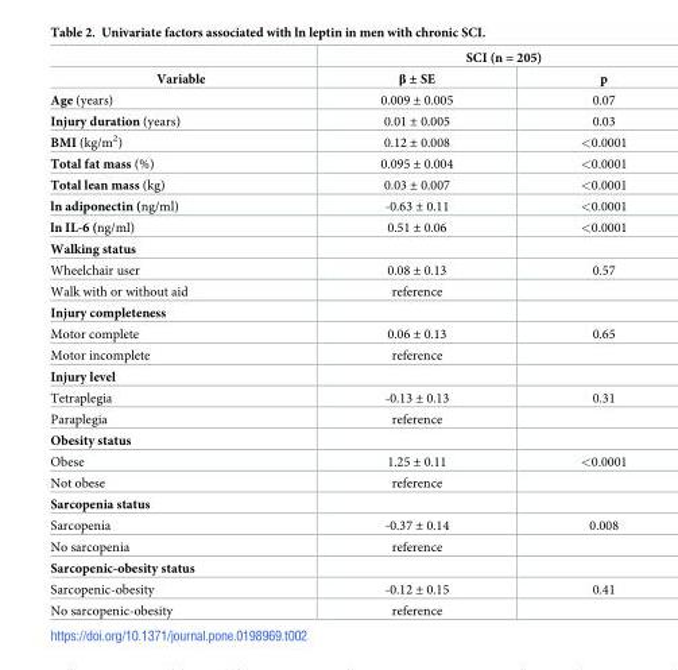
<table><thead><tr><td rowspan="2">Variable</td><td colspan="2">SCI (n = 205)</td></tr><tr><td>β ± SE</td><td>p</td></tr></thead><tbody><tr><td>Age (years)</td><td>0.009 ± 0.005</td><td>0.07</td></tr><tr><td>Injury duration (years)</td><td>0.01 ± 0.005</td><td>0.03</td></tr><tr><td>BMI (kg/m<sup>2</sup>)</td><td>0.12 ± 0.008</td><td>&lt;0.0001</td></tr><tr><td>Total fat mass (%)</td><td>0.095 ± 0.004</td><td>&lt;0.0001</td></tr><tr><td>Total lean mass (kg)</td><td>0.03 ± 0.007</td><td>&lt;0.0001</td></tr><tr><td>ln adiponectin (ng/ml)</td><td>-0.63 ± 0.11</td><td>&lt;0.0001</td></tr><tr><td>ln IL-6 (ng/ml)</td><td>0.51 ± 0.06</td><td>&lt;0.0001</td></tr><tr><td colspan="3">Walking status</td></tr><tr><td>Wheelchair user</td><td>0.08 ± 0.13</td><td>0.57</td></tr><tr><td>Walk with or without aid</td><td>reference</td><td></td></tr><tr><td colspan="3">Injury completeness</td></tr><tr><td>Motor complete</td><td>0.06 ± 0.13</td><td>0.65</td></tr><tr><td>Motor incomplete</td><td>reference</td><td></td></tr><tr><td colspan="3">Injury level</td></tr><tr><td>Tetraplegia</td><td>-0.13 ± 0.13</td><td>0.31</td></tr><tr><td>Paraplegia</td><td>reference</td><td></td></tr><tr><td colspan="3">Obesity status</td></tr><tr><td>Obese</td><td>1.25 ± 0.11</td><td>&lt;0.0001</td></tr><tr><td>Not obese</td><td>reference</td><td></td></tr><tr><td colspan="3">Sarcopenia status</td></tr><tr><td>Sarcopenia</td><td>-0.37 ± 0.14</td><td>0.008</td></tr><tr><td>No sarcopenia</td><td>reference</td><td></td></tr><tr><td colspan="3">Sarcopenic-obesity status</td></tr><tr><td>Sarcopenic-obesity</td><td>-0.12 ± 0.15</td><td>0.41</td></tr><tr><td>No sarcopenic-obesity</td><td>reference</td><td></td></tr></tbody></table>